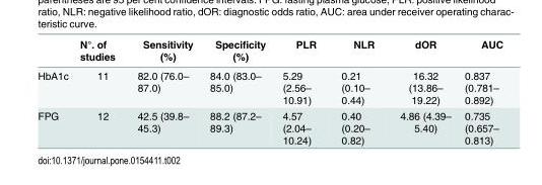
<table><thead><tr><td></td><td>N°. of studies</td><td>Sensitivity (%)</td><td>Specificity (%)</td><td>PLR</td><td>NLR</td><td>dOR</td><td>AUC</td></tr></thead><tbody><tr><td>HbA1c</td><td>11</td><td>82.0 (76.0– 87.0)</td><td>84.0 (83.0– 85.0)</td><td>5.29 (2.56– 10.91)</td><td>0.21 (0.10– 0.44)</td><td>16.32 (13.86– 19.22)</td><td>0.837 (0.781– 0.892)</td></tr><tr><td>FPG</td><td>12</td><td>42.5 (39.8– 45.3)</td><td>88.2 (87.2– 89.3)</td><td>4.57 (2.04– 10.24)</td><td>0.40 (0.20– 0.82)</td><td>4.86 (4.39– 5.40)</td><td>0.735 (0.657– 0.813)</td></tr></tbody></table>